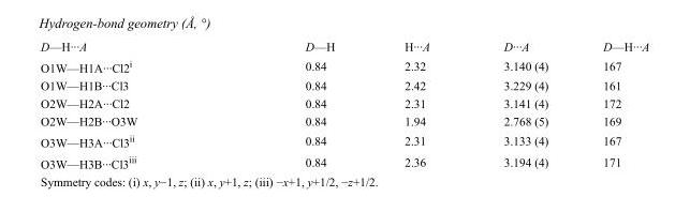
<table><tbody><tr><td>D—H···A</td><td>D—H</td><td>H···A</td><td>D···A</td><td>D—H···A</td></tr><tr><td>O1W—H1A···Cl2<sup>i</sup></td><td>0.84</td><td>2.32</td><td>3.140 (4)</td><td>167</td></tr><tr><td>O1W—H1B···Cl3</td><td>0.84</td><td>2.42</td><td>3.229 (4)</td><td>161</td></tr><tr><td>O2W—H2A···Cl2</td><td>0.84</td><td>2.31</td><td>3.141 (4)</td><td>172</td></tr><tr><td>O2W—H2B···O3W</td><td>0.84</td><td>1.94</td><td>2.768 (5)</td><td>169</td></tr><tr><td>O3W—H3A···Cl3<sup>ii</sup></td><td>0.84</td><td>2.31</td><td>3.133 (4)</td><td>167</td></tr><tr><td>O3W—H3B···Cl3<sup>iii</sup></td><td>0.84</td><td>2.36</td><td>3.194 (4)</td><td>171</td></tr></tbody></table>